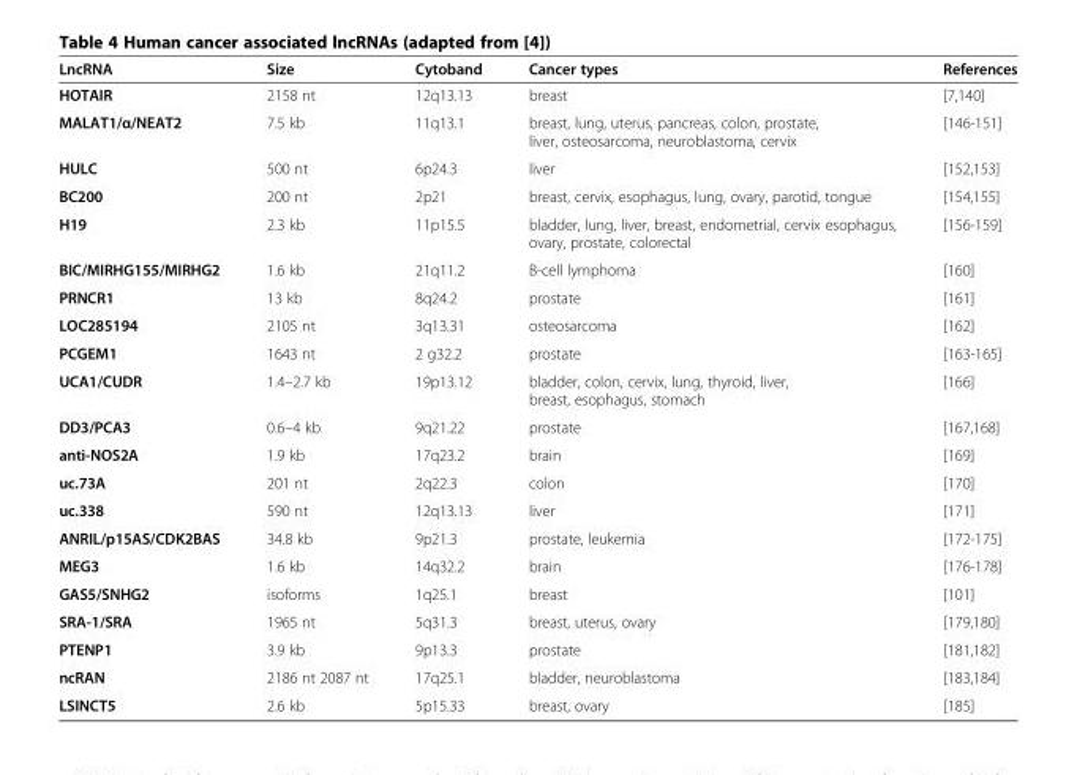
<table><thead><tr><td>LncRNA</td><td>Size</td><td>Cytoband</td><td>Cancer types</td><td>References</td></tr></thead><tbody><tr><td>HOTAIR</td><td>2158 nt</td><td>12q13.13</td><td>breast</td><td>[7,140]</td></tr><tr><td>MALAT1/α/NEAT2</td><td>7.5 kb</td><td>11q13.1</td><td>breast, lung, uterus, pancreas, colon, prostate, liver, osteosarcoma, neuroblastoma, cervix</td><td>[146-151]</td></tr><tr><td>HULC</td><td>500 nt</td><td>6p24.3</td><td>liver</td><td>[152,153]</td></tr><tr><td>BC200</td><td>200 nt</td><td>2p21</td><td>breast, cervix, esophagus, lung, ovary, parotid, tongue</td><td>[154,155]</td></tr><tr><td>H19</td><td>2.3 kb</td><td>11p15.5</td><td>bladder, lung, liver, breast, endometrial, cervix esophagus, ovary, prostate, colorectal</td><td>[156-159]</td></tr><tr><td>BIC/MIRHG155/MIRHG2</td><td>1.6 kb</td><td>21q11.2</td><td>B-cell lymphoma</td><td>[160]</td></tr><tr><td>PRNCR1</td><td>13 kb</td><td>8q24.2</td><td>prostate</td><td>[161]</td></tr><tr><td>LOC285194</td><td>2105 nt</td><td>3q13.31</td><td>osteosarcoma</td><td>[162]</td></tr><tr><td>PCGEM1</td><td>1643 nt</td><td>2 g32.2</td><td>prostate</td><td>[163-165]</td></tr><tr><td>UCA1/CUDR</td><td>1.4–2.7 kb</td><td>19p13.12</td><td>bladder, colon, cervix, lung, thyroid, liver, breast, esophagus, stomach</td><td>[166]</td></tr><tr><td>DD3/PCA3</td><td>0.6–4 kb</td><td>9q21.22</td><td>prostate</td><td>[167,168]</td></tr><tr><td>anti-NOS2A</td><td>1.9 kb</td><td>17q23.2</td><td>brain</td><td>[169]</td></tr><tr><td>uc.73A</td><td>201 nt</td><td>2q22.3</td><td>colon</td><td>[170]</td></tr><tr><td>uc.338</td><td>590 nt</td><td>12q13.13</td><td>liver</td><td>[171]</td></tr><tr><td>ANRIL/p15AS/CDK2BAS</td><td>34.8 kb</td><td>9p21.3</td><td>prostate, leukemia</td><td>[172-175]</td></tr><tr><td>MEG3</td><td>1.6 kb</td><td>14q32.2</td><td>brain</td><td>[176-178]</td></tr><tr><td>GAS5/SNHG2</td><td>isoforms</td><td>1q25.1</td><td>breast</td><td>[101]</td></tr><tr><td>SRA-1/SRA</td><td>1965 nt</td><td>5q31.3</td><td>breast, uterus, ovary</td><td>[179,180]</td></tr><tr><td>PTENP1</td><td>3.9 kb</td><td>9p13.3</td><td>prostate</td><td>[181,182]</td></tr><tr><td>ncRAN</td><td>2186 nt 2087 nt</td><td>17q25.1</td><td>bladder, neuroblastoma</td><td>[183,184]</td></tr><tr><td>LSINCT5</td><td>2.6 kb</td><td>5p15.33</td><td>breast, ovary</td><td>[185]</td></tr></tbody></table>